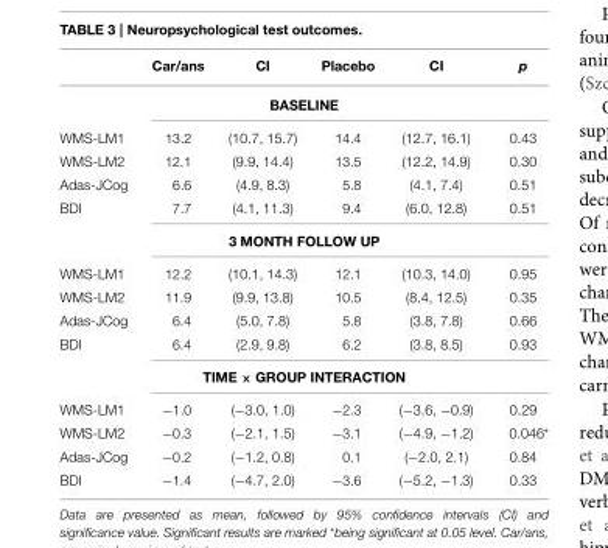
<table><thead><tr><td></td><td>Car/ans</td><td>CI</td><td>Placebo</td><td>CI</td><td>p</td></tr></thead><tbody><tr><td></td><td colspan="5">BASELINE</td></tr><tr><td>WMS-LM1</td><td>13.2</td><td>(10.7, 15.7)</td><td>14.4</td><td>(12.7, 16.1)</td><td>0.43</td></tr><tr><td>WMS-LM2</td><td>12.1</td><td>(9.9, 14.4)</td><td>13.5</td><td>(12.2, 14.9)</td><td>0.30</td></tr><tr><td>Adas-JCog</td><td>6.6</td><td>(4.9, 8.3)</td><td>5.8</td><td>(4.1, 7.4)</td><td>0.51</td></tr><tr><td>BDI</td><td>7.7</td><td>(4.1, 11.3)</td><td>9.4</td><td>(6.0, 12.8)</td><td>0.51</td></tr><tr><td colspan="6">3 MONTH FOLLOW UP</td></tr><tr><td>WMS-LM1</td><td>12.2</td><td>(10.1, 14.3)</td><td>12.1</td><td>(10.3, 14.0)</td><td>0.95</td></tr><tr><td>WMS-LM2</td><td>11.9</td><td>(9.9, 13.8)</td><td>10.5</td><td>(8.4, 12.5)</td><td>0.35</td></tr><tr><td>Adas-JCog</td><td>6.4</td><td>(5.0, 7.8)</td><td>5.8</td><td>(3.8, 7.8)</td><td>0.66</td></tr><tr><td>BDI</td><td>6.4</td><td>(2.9, 9.8)</td><td>6.2</td><td>(3.8, 8.5)</td><td>0.93</td></tr><tr><td colspan="6">TIME × GROUP INTERACTION</td></tr><tr><td>WMS-LM1</td><td>−1.0</td><td>(−3.0, 1.0)</td><td>−2.3</td><td>(−3.6, −0.9)</td><td>0.29</td></tr><tr><td>WMS-LM2</td><td>−0.3</td><td>(−2.1, 1.5)</td><td>−3.1</td><td>(−4.9, −1.2)</td><td>0.046*</td></tr><tr><td>Adas-JCog</td><td>−0.2</td><td>(−1.2, 0.8)</td><td>0.1</td><td>(−2.0, 2.1)</td><td>0.84</td></tr><tr><td>BDI</td><td>−1.4</td><td>(−4.7, 2.0)</td><td>−3.6</td><td>(−5.2, −1.3)</td><td>0.33</td></tr></tbody></table>